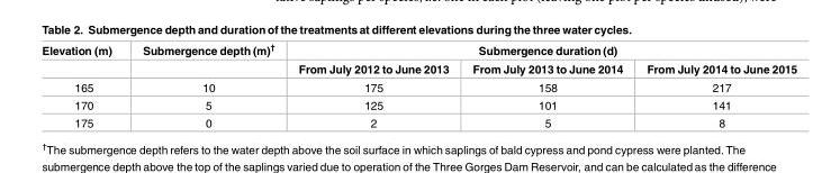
<table><thead><tr><td rowspan="2">Elevation (m)</td><td rowspan="2">Submergence depth (m)<sup>†</sup></td><td colspan="3">Submergence duration (d)</td></tr><tr><td>From July 2012 to June 2013</td><td>From July 2013 to June 2014</td><td>From July 2014 to June 2015</td></tr></thead><tbody><tr><td>165</td><td>10</td><td>175</td><td>158</td><td>217</td></tr><tr><td>170</td><td>5</td><td>125</td><td>101</td><td>141</td></tr><tr><td>175</td><td>0</td><td>2</td><td>5</td><td>8</td></tr></tbody></table>